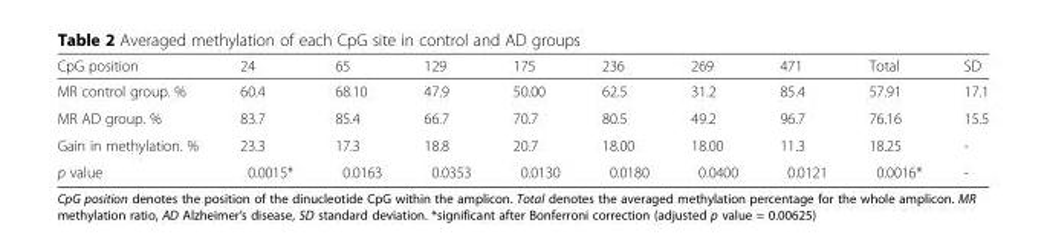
<table><thead><tr><td>CpG position</td><td>24</td><td>65</td><td>129</td><td>175</td><td>236</td><td>269</td><td>471</td><td>Total</td><td>SD</td></tr></thead><tbody><tr><td>MR control group. %</td><td>60.4</td><td>68.10</td><td>47.9</td><td>50.00</td><td>62.5</td><td>31.2</td><td>85.4</td><td>57.91</td><td>17.1</td></tr><tr><td>MR AD group. %</td><td>83.7</td><td>85.4</td><td>66.7</td><td>70.7</td><td>80.5</td><td>49.2</td><td>96.7</td><td>76.16</td><td>15.5</td></tr><tr><td>Gain in methylation. %</td><td>23.3</td><td>17.3</td><td>18.8</td><td>20.7</td><td>18.00</td><td>18.00</td><td>11.3</td><td>18.25</td><td>-</td></tr><tr><td>p value</td><td>0.0015*</td><td>0.0163</td><td>0.0353</td><td>0.0130</td><td>0.0180</td><td>0.0400</td><td>0.0121</td><td>0.0016*</td><td>-</td></tr></tbody></table>